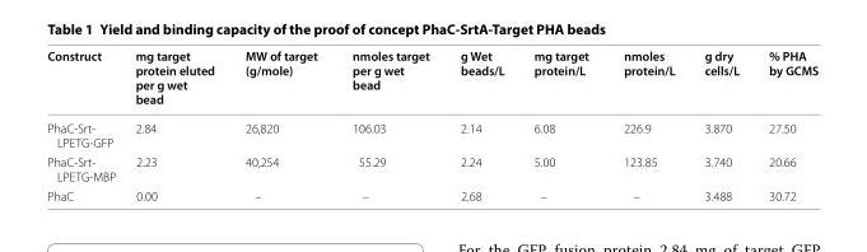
<table><thead><tr><td>Construct</td><td>mg target protein eluted per g wet bead</td><td>MW of target (g/mole)</td><td>nmoles target per g wet bead</td><td>g Wet beads/L</td><td>mg target protein/L</td><td>nmoles protein/L</td><td>g dry cells/L</td><td>% PHA by GCMS</td></tr></thead><tbody><tr><td>PhaC-Srt- LPETG-GFP</td><td>2.84</td><td>26,820</td><td>106.03</td><td>2.14</td><td>6.08</td><td>226.9</td><td>3.870</td><td>27.50</td></tr><tr><td>PhaC-Srt- LPETG-MBP</td><td>2.23</td><td>40,254</td><td>55.29</td><td>2.24</td><td>5.00</td><td>123.85</td><td>3.740</td><td>20.66</td></tr><tr><td>PhaC</td><td>0.00</td><td>–</td><td>–</td><td>2.68</td><td>–</td><td>–</td><td>3.488</td><td>30.72</td></tr></tbody></table>